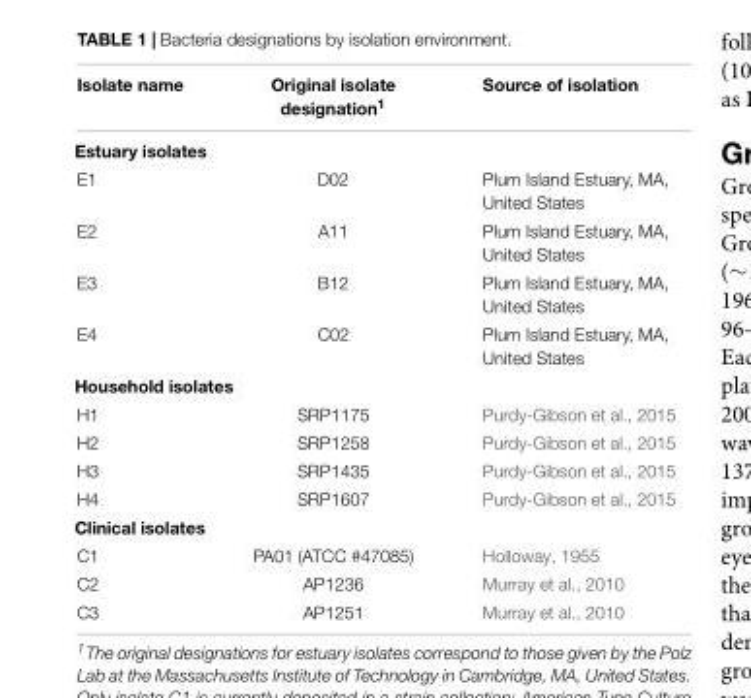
<table><thead><tr><td>Isolate name</td><td>Original isolate designation<sup>1</sup></td><td>Source of isolation</td></tr></thead><tbody><tr><td colspan="3">Estuary isolates</td></tr><tr><td>E1</td><td>D02</td><td>Plum Island Estuary, MA, United States</td></tr><tr><td>E2</td><td>A11</td><td>Plum Island Estuary, MA, United States</td></tr><tr><td>E3</td><td>B12</td><td>Plum Island Estuary, MA, United States</td></tr><tr><td>E4</td><td>C02</td><td>Plum Island Estuary, MA, United States</td></tr><tr><td colspan="3">Household isolates</td></tr><tr><td>H1</td><td>SRP1175</td><td>Purdy-Gibson et al., 2015</td></tr><tr><td>H2</td><td>SRP1258</td><td>Purdy-Gibson et al., 2015</td></tr><tr><td>H3</td><td>SRP1435</td><td>Purdy-Gibson et al., 2015</td></tr><tr><td>H4</td><td>SRP1607</td><td>Purdy-Gibson et al., 2015</td></tr><tr><td colspan="3">Clinical isolates</td></tr><tr><td>C1</td><td>PA01 (ATCC #47085)</td><td>Holloway, 1955</td></tr><tr><td>C2</td><td>AP1236</td><td>Murray et al., 2010</td></tr><tr><td>C3</td><td>AP1251</td><td>Murray et al., 2010</td></tr></tbody></table>